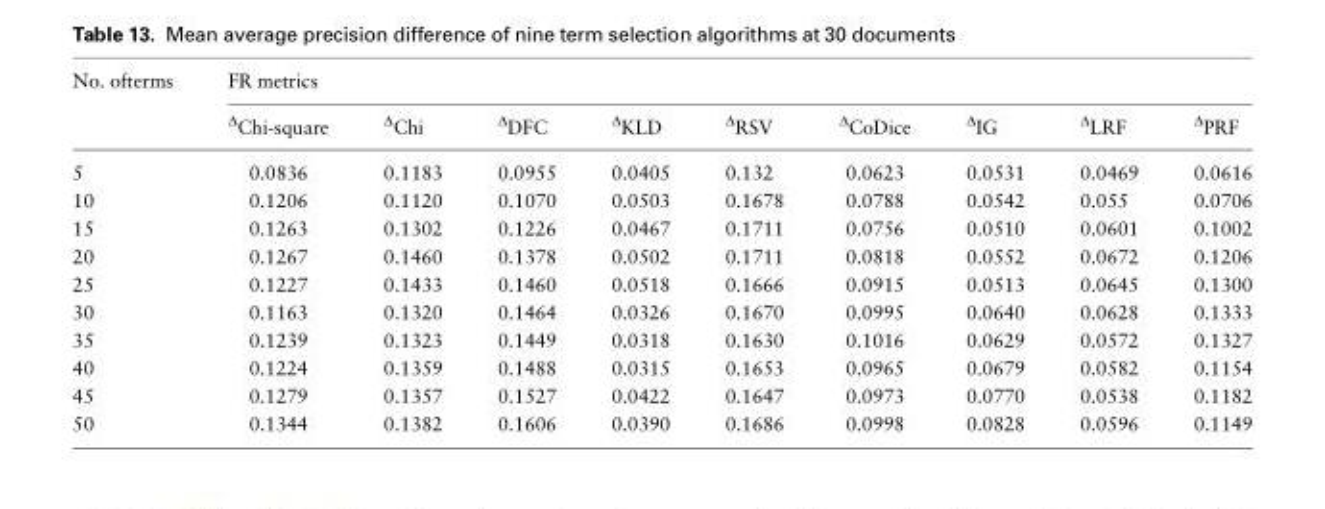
<table><thead><tr><td rowspan="2">No. ofterms</td><td colspan="9">FR metrics</td></tr><tr><td><sup>Δ</sup>Chi-square</td><td><sup>Δ</sup>Chi</td><td><sup>Δ</sup>DFC</td><td><sup>Δ</sup>KLD</td><td><sup>Δ</sup>RSV</td><td><sup>Δ</sup>CoDice</td><td><sup>Δ</sup>IG</td><td><sup>Δ</sup>LRF</td><td><sup>Δ</sup>PRF</td></tr></thead><tbody><tr><td>5</td><td>0.0836</td><td>0.1183</td><td>0.0955</td><td>0.0405</td><td>0.132</td><td>0.0623</td><td>0.0531</td><td>0.0469</td><td>0.0616</td></tr><tr><td>10</td><td>0.1206</td><td>0.1120</td><td>0.1070</td><td>0.0503</td><td>0.1678</td><td>0.0788</td><td>0.0542</td><td>0.055</td><td>0.0706</td></tr><tr><td>15</td><td>0.1263</td><td>0.1302</td><td>0.1226</td><td>0.0467</td><td>0.1711</td><td>0.0756</td><td>0.0510</td><td>0.0601</td><td>0.1002</td></tr><tr><td>20</td><td>0.1267</td><td>0.1460</td><td>0.1378</td><td>0.0502</td><td>0.1711</td><td>0.0818</td><td>0.0552</td><td>0.0672</td><td>0.1206</td></tr><tr><td>25</td><td>0.1227</td><td>0.1433</td><td>0.1460</td><td>0.0518</td><td>0.1666</td><td>0.0915</td><td>0.0513</td><td>0.0645</td><td>0.1300</td></tr><tr><td>30</td><td>0.1163</td><td>0.1320</td><td>0.1464</td><td>0.0326</td><td>0.1670</td><td>0.0995</td><td>0.0640</td><td>0.0628</td><td>0.1333</td></tr><tr><td>35</td><td>0.1239</td><td>0.1323</td><td>0.1449</td><td>0.0318</td><td>0.1630</td><td>0.1016</td><td>0.0629</td><td>0.0572</td><td>0.1327</td></tr><tr><td>40</td><td>0.1224</td><td>0.1359</td><td>0.1488</td><td>0.0315</td><td>0.1653</td><td>0.0965</td><td>0.0679</td><td>0.0582</td><td>0.1154</td></tr><tr><td>45</td><td>0.1279</td><td>0.1357</td><td>0.1527</td><td>0.0422</td><td>0.1647</td><td>0.0973</td><td>0.0770</td><td>0.0538</td><td>0.1182</td></tr><tr><td>50</td><td>0.1344</td><td>0.1382</td><td>0.1606</td><td>0.0390</td><td>0.1686</td><td>0.0998</td><td>0.0828</td><td>0.0596</td><td>0.1149</td></tr></tbody></table>